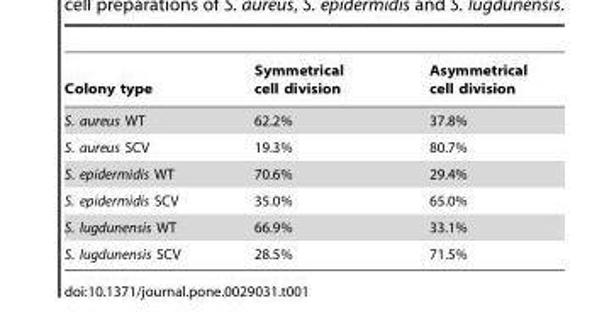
<table><thead><tr><td>Colony type</td><td>Symmetrical cell division</td><td>Asymmetrical cell division</td></tr></thead><tbody><tr><td>S. aureus WT</td><td>62.2%</td><td>37.8%</td></tr><tr><td>S. aureus SCV</td><td>19.3%</td><td>80.7%</td></tr><tr><td>S. epidermidis WT</td><td>70.6%</td><td>29.4%</td></tr><tr><td>S. epidermidis SCV</td><td>35.0%</td><td>65.0%</td></tr><tr><td>S. lugdunensis WT</td><td>66.9%</td><td>33.1%</td></tr><tr><td>S. lugdunensis SCV</td><td>28.5%</td><td>71.5%</td></tr></tbody></table>